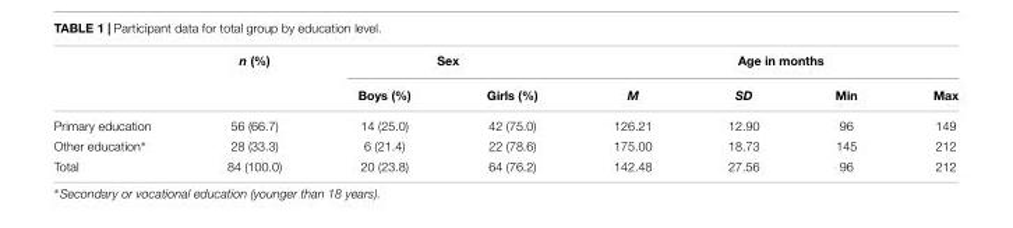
<table><thead><tr><td rowspan="2"></td><td rowspan="2">n (%)</td><td colspan="2">Sex</td><td colspan="4">Age in months</td></tr><tr><td>Boys (%)</td><td>Girls (%)</td><td>M</td><td>SD</td><td>Min</td><td>Max</td></tr></thead><tbody><tr><td>Primary education</td><td>56 (66.7)</td><td>14 (25.0)</td><td>42 (75.0)</td><td>126.21</td><td>12.90</td><td>96</td><td>149</td></tr><tr><td>Other education∗</td><td>28 (33.3)</td><td>6 (21.4)</td><td>22 (78.6)</td><td>175.00</td><td>18.73</td><td>145</td><td>212</td></tr><tr><td>Total</td><td>84 (100.0)</td><td>20 (23.8)</td><td>64 (76.2)</td><td>142.48</td><td>27.56</td><td>96</td><td>212</td></tr></tbody></table>